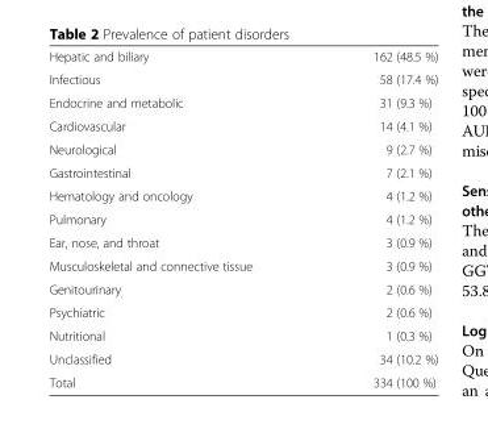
<table><tbody><tr><td>Hepatic and biliary</td><td>162 (48.5 %)</td></tr><tr><td>Infectious</td><td>58 (17.4 %)</td></tr><tr><td>Endocrine and metabolic</td><td>31 (9.3 %)</td></tr><tr><td>Cardiovascular</td><td>14 (4.1 %)</td></tr><tr><td>Neurological</td><td>9 (2.7 %)</td></tr><tr><td>Gastrointestinal</td><td>7 (2.1 %)</td></tr><tr><td>Hematology and oncology</td><td>4 (1.2 %)</td></tr><tr><td>Pulmonary</td><td>4 (1.2 %)</td></tr><tr><td>Ear, nose, and throat</td><td>3 (0.9 %)</td></tr><tr><td>Musculoskeletal and connective tissue</td><td>3 (0.9 %)</td></tr><tr><td>Genitourinary</td><td>2 (0.6 %)</td></tr><tr><td>Psychiatric</td><td>2 (0.6 %)</td></tr><tr><td>Nutritional</td><td>1 (0.3 %)</td></tr><tr><td>Unclassified</td><td>34 (10.2 %)</td></tr><tr><td>Total</td><td>334 (100 %)</td></tr></tbody></table>